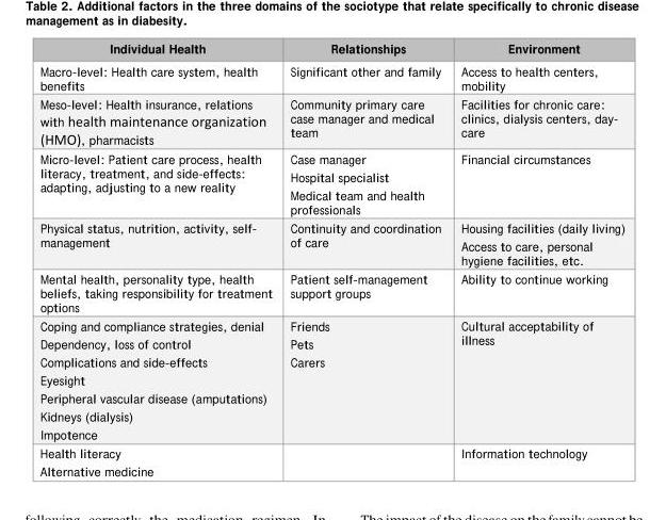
<table><thead><tr><td>Individual Health</td><td>Relationships</td><td>Environment</td></tr></thead><tbody><tr><td>Macro-level: Health care system, health benefits</td><td>Significant other and family</td><td>Access to health centers, mobility</td></tr><tr><td>Meso-level: Health insurance, relations with health maintenance organization (HMO), pharmacists</td><td>Community primary care case manager and medical team</td><td>Facilities for chronic care: clinics, dialysis centers, day- care</td></tr><tr><td>Micro-level: Patient care process, health literacy, treatment, and side-effects: adapting, adjusting to a new reality</td><td>Case manager Hospital specialist Medical team and health professionals</td><td>Financial circumstances</td></tr><tr><td>Physical status, nutrition, activity, self- management</td><td>Continuity and coordination of care</td><td>Housing facilities (daily living) Access to care, personal hygiene facilities, etc.</td></tr><tr><td>Mental health, personality type, health beliefs, taking responsibility for treatment options</td><td>Patient self-management support groups</td><td>Ability to continue working</td></tr><tr><td>Coping and compliance strategies, denial Dependency, loss of control Complications and side-effects Eyesight Peripheral vascular disease (amputations) Kidneys (dialysis) Impotence</td><td>Friends Pets Carers</td><td>Cultural acceptability of illness</td></tr><tr><td>Health literacy Alternative medicine</td><td></td><td>Information technology</td></tr></tbody></table>